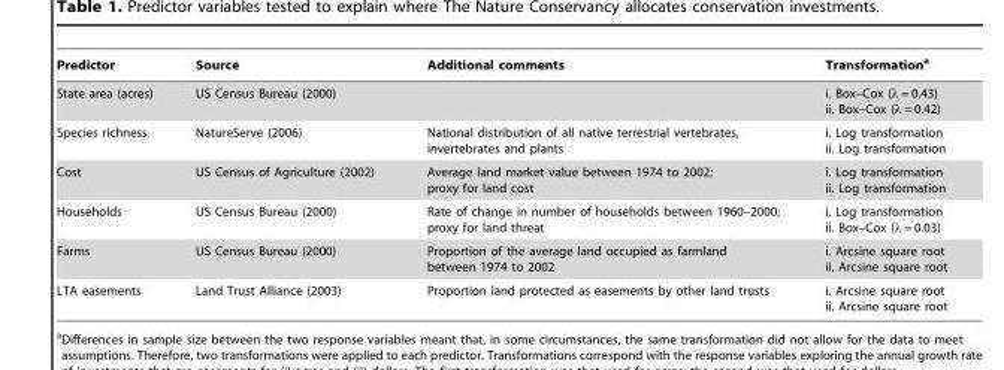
<table><thead><tr><td>Predictor</td><td>Source</td><td>Additional comments</td><td>Transformation<sup>a</sup></td></tr></thead><tbody><tr><td>State area (acres)</td><td>US Census Bureau (2000)</td><td></td><td>i. Box–Cox (λ = 0.43) ii. Box–Cox (λ = 0.42)</td></tr><tr><td>Species richness</td><td>NatureServe (2006)</td><td>National distribution of all native terrestrial vertebrates, invertebrates and plants</td><td>i. Log transformation ii. Log transformation</td></tr><tr><td>Cost</td><td>US Census of Agriculture (2002)</td><td>Average land market value between 1974 to 2002; proxy for land cost</td><td>i. Log transformation ii. Log transformation</td></tr><tr><td>Households</td><td>US Census Bureau (2000)</td><td>Rate of change in number of households between 1960–2000; proxy for land threat</td><td>i. Log transformation ii. Box–Cox (λ = 0.03)</td></tr><tr><td>Farms</td><td>US Census Bureau (2000)</td><td>Proportion of the average land occupied as farmland between 1974 to 2002</td><td>i. Arcsine square root ii. Arcsine square root</td></tr><tr><td>LTA easements</td><td>Land Trust Alliance (2003)</td><td>Proportion land protected as easements by other land trusts</td><td>i. Arcsine square root ii. Arcsine square root</td></tr></tbody></table>